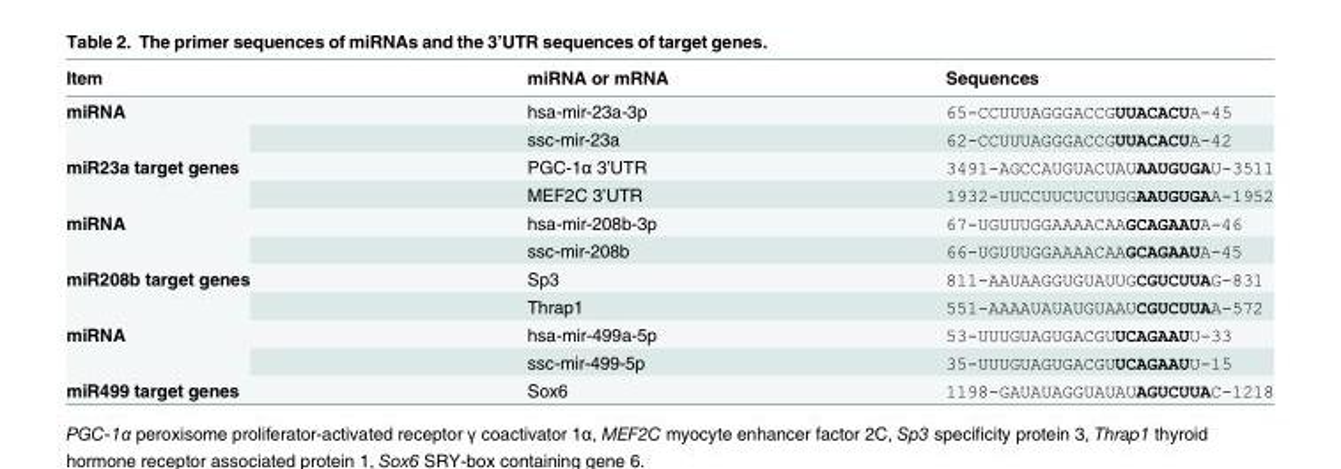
<table><thead><tr><td>Item</td><td>miRNA or mRNA</td><td>Sequences</td></tr></thead><tbody><tr><td rowspan="2">miRNA</td><td>hsa-mir-23a-3p</td><td>65-CCUUUAGGGACCGUUACACUA-45</td></tr><tr><td>ssc-mir-23a</td><td>62-CCUUUAGGGACCGUUACACUA-42</td></tr><tr><td rowspan="2">miR23a target genes</td><td>PGC-1α 3’UTR</td><td>3491-AGCCAUGUACUAUAAUGUGAU-3511</td></tr><tr><td>MEF2C 3’UTR</td><td>1932-UUCCUUCUCUUGGAAUGUGAA-1952</td></tr><tr><td rowspan="2">miRNA</td><td>hsa-mir-208b-3p</td><td>67-UGUUUGGAAAACAAGCAGAAUA-46</td></tr><tr><td>ssc-mir-208b</td><td>66-UGUUUGGAAAACAAGCAGAAUA-45</td></tr><tr><td rowspan="2">miR208b target genes</td><td>Sp3</td><td>811-AAUAAGGUGUAUUGCGUCUUAG-831</td></tr><tr><td>Thrap1</td><td>551-AAAAUAUAUGUAAUCGUCUUAA-572</td></tr><tr><td rowspan="2">miRNA</td><td>hsa-mir-499a-5p</td><td>53-UUUGUAGUGACGUUCAGAAUU-33</td></tr><tr><td>ssc-mir-499-5p</td><td>35-UUUGUAGUGACGUUCAGAAUU-15</td></tr><tr><td>miR499 target genes</td><td>Sox6</td><td>1198-GAUAUAGGUAUAUAGUCUUAC-1218</td></tr></tbody></table>